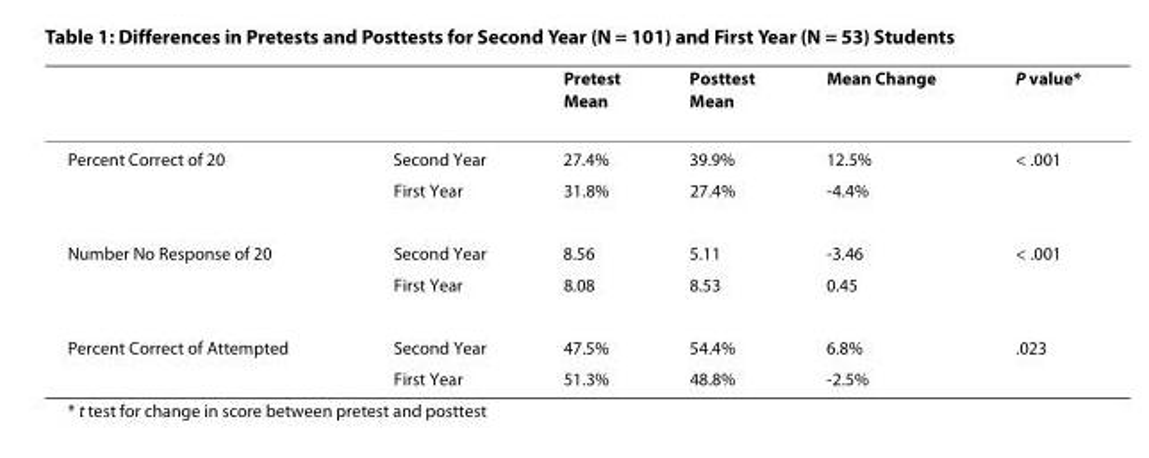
<table><thead><tr><td></td><td></td><td>Pretest Mean</td><td>Posttest Mean</td><td>Mean Change</td><td>P value*</td></tr></thead><tbody><tr><td rowspan="2">Percent Correct of 20</td><td>Second Year</td><td>27.4%</td><td>39.9%</td><td>12.5%</td><td>&lt; .001</td></tr><tr><td>First Year</td><td>31.8%</td><td>27.4%</td><td>-4.4%</td><td></td></tr><tr><td rowspan="2">Number No Response of 20</td><td>Second Year</td><td>8.56</td><td>5.11</td><td>-3.46</td><td>&lt; .001</td></tr><tr><td>First Year</td><td>8.08</td><td>8.53</td><td>0.45</td><td></td></tr><tr><td rowspan="2">Percent Correct of Attempted</td><td>Second Year</td><td>47.5%</td><td>54.4%</td><td>6.8%</td><td>.023</td></tr><tr><td>First Year</td><td>51.3%</td><td>48.8%</td><td>-2.5%</td><td></td></tr></tbody></table>